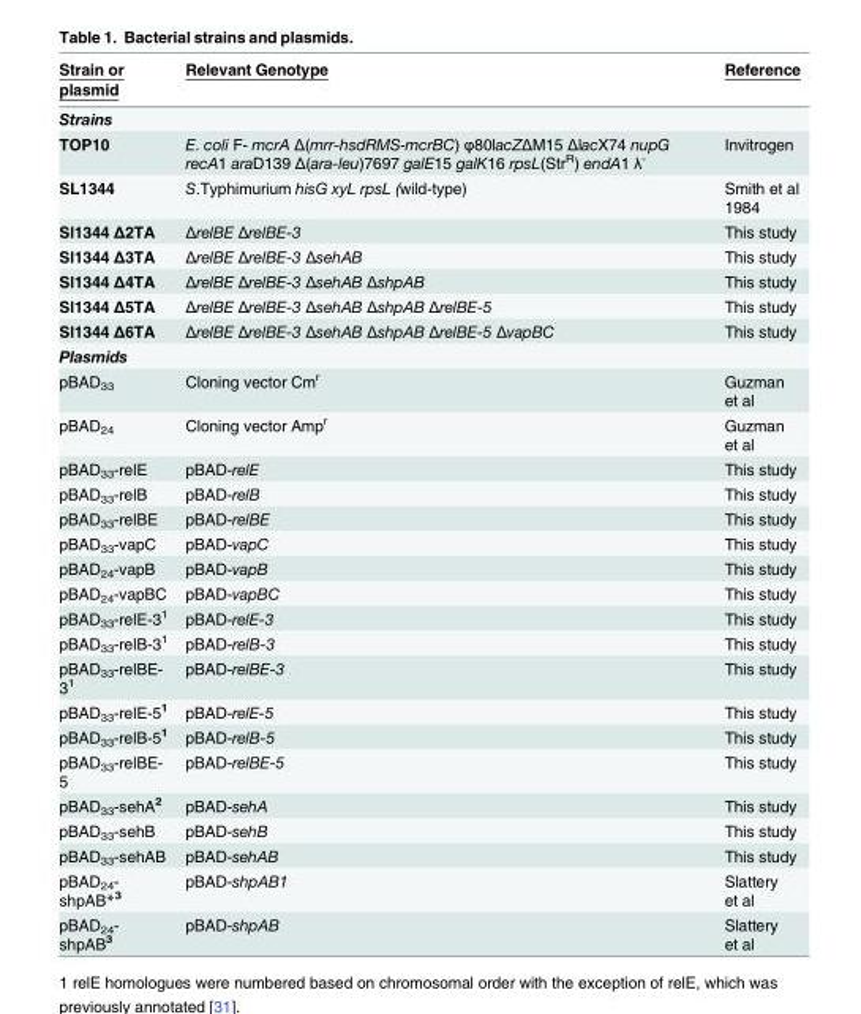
<table><thead><tr><td>Strain or plasmid</td><td>Relevant Genotype</td><td>Reference</td></tr></thead><tbody><tr><td colspan="3">Strains</td></tr><tr><td>TOP10</td><td>E. coli F- mcrA Δ(mrr-hsdRMS-mcrBC) φ80lacZΔM15 ΔlacX74 nupG recA1 araD139 Δ(ara-leu)7697 galE15 galK16 rpsL(Str<sup>R</sup>) endA1 λ<sup>-</sup></td><td>Invitrogen</td></tr><tr><td>SL1344</td><td>S.Typhimurium hisG xyL rpsL (wild-type)</td><td>Smith et al 1984</td></tr><tr><td>Sl1344 Δ2TA</td><td>ΔrelBE ΔrelBE-3</td><td>This study</td></tr><tr><td>Sl1344 Δ3TA</td><td>ΔrelBE ΔrelBE-3 ΔsehAB</td><td>This study</td></tr><tr><td>Sl1344 Δ4TA</td><td>ΔrelBE ΔrelBE-3 ΔsehAB ΔshpAB</td><td>This study</td></tr><tr><td>Sl1344 Δ5TA</td><td>ΔrelBE ΔrelBE-3 ΔsehAB ΔshpAB ΔrelBE-5</td><td>This study</td></tr><tr><td>Sl1344 Δ6TA</td><td>ΔrelBE ΔrelBE-3 ΔsehAB ΔshpAB ΔrelBE-5 ΔvapBC</td><td>This study</td></tr><tr><td colspan="3">Plasmids</td></tr><tr><td>pBAD<sub>33</sub></td><td>Cloning vector Cm<sup>r</sup></td><td>Guzman et al</td></tr><tr><td>pBAD<sub>24</sub></td><td>Cloning vector Amp<sup>r</sup></td><td>Guzman et al</td></tr><tr><td>pBAD<sub>33</sub>-relE</td><td>pBAD-relE</td><td>This study</td></tr><tr><td>pBAD<sub>33</sub>-relB</td><td>pBAD-relB</td><td>This study</td></tr><tr><td>pBAD<sub>33</sub>-relBE</td><td>pBAD-relBE</td><td>This study</td></tr><tr><td>pBAD<sub>33</sub>-vapC</td><td>pBAD-vapC</td><td>This study</td></tr><tr><td>pBAD<sub>24</sub>-vapB</td><td>pBAD-vapB</td><td>This study</td></tr><tr><td>pBAD<sub>24</sub>-vapBC</td><td>pBAD-vapBC</td><td>This study</td></tr><tr><td>pBAD<sub>33</sub>-relE-3<sup>1</sup></td><td>pBAD-relE-3</td><td>This study</td></tr><tr><td>pBAD<sub>33</sub>-relB-3<sup>1</sup></td><td>pBAD-relB-3</td><td>This study</td></tr><tr><td>pBAD<sub>33</sub>-relBE- 3<sup>1</sup></td><td>pBAD-relBE-3</td><td>This study</td></tr><tr><td>pBAD<sub>33</sub>-relE-5<sup>1</sup></td><td>pBAD-relE-5</td><td>This study</td></tr><tr><td>pBAD33-relB-51</td><td>pBAD-relB-5</td><td>This study</td></tr><tr><td>pBAD<sub>33</sub>-relBE- 5</td><td>pBAD-relBE-5</td><td>This study</td></tr><tr><td>pBAD<sub>33</sub>-sehA<sup>2</sup></td><td>pBAD-sehA</td><td>This study</td></tr><tr><td>pBAD<sub>33</sub>-sehB</td><td>pBAD-sehB</td><td>This study</td></tr><tr><td>pBAD<sub>33</sub>-sehAB</td><td>pBAD-sehAB</td><td>This study</td></tr><tr><td>pBAD<sub>24</sub>- shpAB*<sup>3</sup></td><td>pBAD-shpAB1</td><td>Slattery et al</td></tr><tr><td>pBAD<sub>24</sub>- shpAB<sup>3</sup></td><td>pBAD-shpAB</td><td>Slattery et al</td></tr></tbody></table>